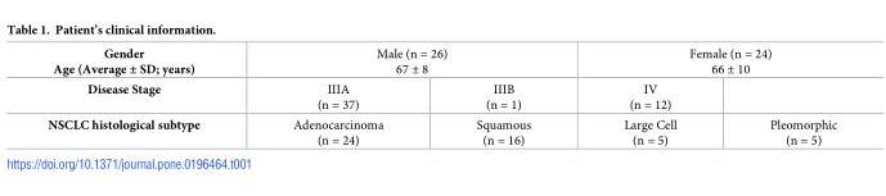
<table><tbody><tr><td>Gender Age (Average ± SD; years)</td><td colspan="2">Male (n = 26) 67 ± 8</td><td colspan="2">Female (n = 24) 66 ± 10</td></tr><tr><td>Disease Stage</td><td>IIIA (n = 37)</td><td>IIIB (n = 1)</td><td>IV (n = 12)</td><td></td></tr><tr><td>NSCLC histological subtype</td><td>Adenocarcinoma (n = 24)</td><td>Squamous (n = 16)</td><td>Large Cell (n = 5)</td><td>Pleomorphic (n = 5)</td></tr></tbody></table>